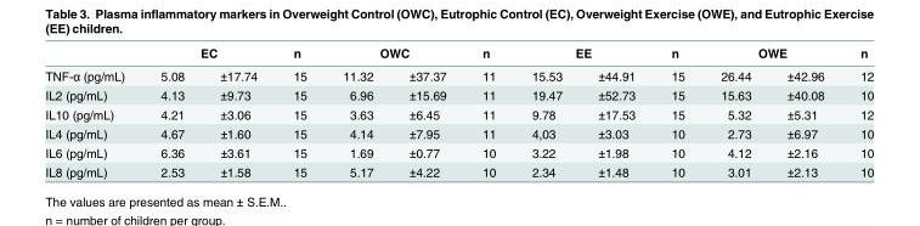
<table><thead><tr><td rowspan="2">TNF-α (pg/mL)</td><td colspan="2">EC</td><td rowspan="2">n 15</td><td colspan="2">OWC</td><td rowspan="2">n 11</td><td colspan="2">EE</td><td rowspan="2">n 15</td><td colspan="2">OWE</td><td rowspan="2">n 12</td></tr><tr><td>5.08</td><td>±17.74</td><td>11.32</td><td>±37.37</td><td>15.53</td><td>±44.91</td><td>26.44</td><td>±42.96</td></tr></thead><tbody><tr><td>IL2 (pg/mL)</td><td>4.13</td><td>±9.73</td><td>15</td><td>6.96</td><td>±15.69</td><td>11</td><td>19.47</td><td>±52.73</td><td>15</td><td>15.63</td><td>±40.08</td><td>10</td></tr><tr><td>IL10 (pg/mL)</td><td>4.21</td><td>±3.06</td><td>15</td><td>3.63</td><td>±6.45</td><td>11</td><td>9.78</td><td>±17.53</td><td>15</td><td>5.32</td><td>±5.31</td><td>12</td></tr><tr><td>IL4 (pg/mL)</td><td>4.67</td><td>±1.60</td><td>15</td><td>4.14</td><td>±7.95</td><td>11</td><td>4,03</td><td>±3.03</td><td>10</td><td>2.73</td><td>±6.97</td><td>10</td></tr><tr><td>IL6 (pg/mL)</td><td>6.36</td><td>±3.61</td><td>15</td><td>1.69</td><td>±0.77</td><td>10</td><td>3.22</td><td>±1.98</td><td>10</td><td>4.12</td><td>±2.16</td><td>10</td></tr><tr><td>IL8 (pg/mL)</td><td>2.53</td><td>±1.58</td><td>15</td><td>5.17</td><td>±4.22</td><td>10</td><td>2.34</td><td>±1.48</td><td>10</td><td>3.01</td><td>±2.13</td><td>10</td></tr></tbody></table>